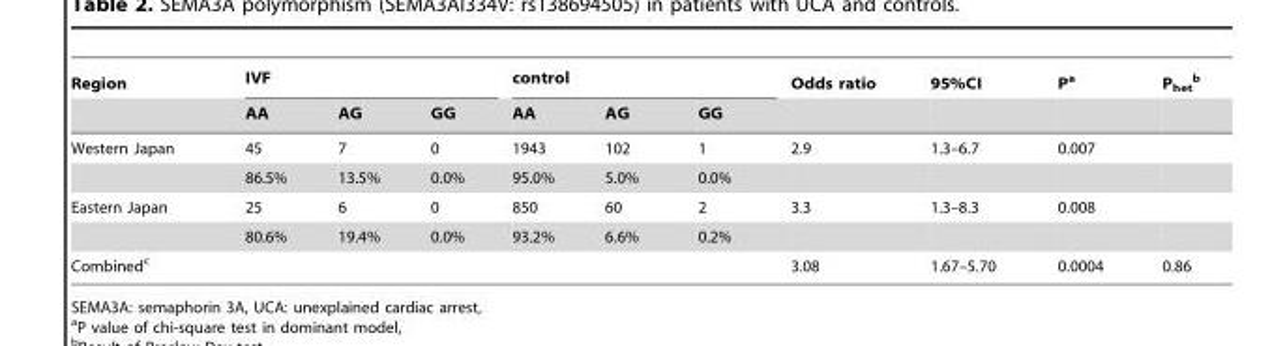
<table><thead><tr><td rowspan="2">Region</td><td colspan="3">IVF</td><td colspan="3">control</td><td rowspan="2">Odds ratio</td><td rowspan="2">95%CI</td><td rowspan="2">P<sup>a</sup></td><td rowspan="2">P<sub>het</sub> b</td></tr><tr><td>AA</td><td>AG</td><td>GG</td><td>AA</td><td>AG</td><td>GG</td></tr></thead><tbody><tr><td rowspan="2">Western Japan</td><td>45</td><td>7</td><td>0</td><td>1943</td><td>102</td><td>1</td><td>2.9</td><td>1.3–6.7</td><td>0.007</td><td></td></tr><tr><td>86.5%</td><td>13.5%</td><td>0.0%</td><td>95.0%</td><td>5.0%</td><td>0.0%</td><td></td><td></td><td></td><td></td></tr><tr><td rowspan="2">Eastern Japan</td><td>25</td><td>6</td><td>0</td><td>850</td><td>60</td><td>2</td><td>3.3</td><td>1.3–8.3</td><td>0.008</td><td></td></tr><tr><td>80.6%</td><td>19.4%</td><td>0.0%</td><td>93.2%</td><td>6.6%</td><td>0.2%</td><td></td><td></td><td></td><td></td></tr><tr><td>Combined<sup>c</sup></td><td></td><td></td><td></td><td></td><td></td><td></td><td>3.08</td><td>1.67–5.70</td><td>0.0004</td><td>0.86</td></tr></tbody></table>